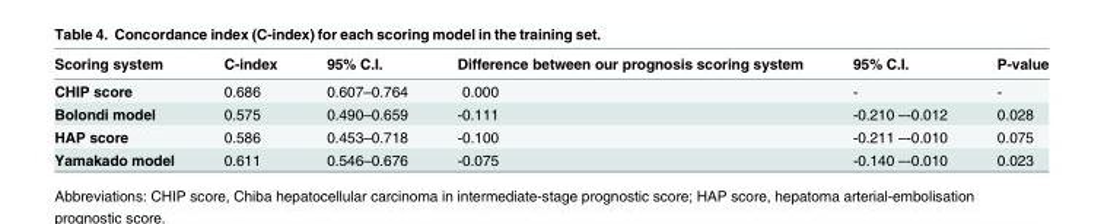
<table><thead><tr><td>Scoring system</td><td>C-index</td><td>95% C.I.</td><td>Difference between our prognosis scoring system</td><td>95% C.I.</td><td>P-value</td></tr></thead><tbody><tr><td>CHIP score</td><td>0.686</td><td>0.607–0.764</td><td>0.000</td><td>-</td><td>-</td></tr><tr><td>Bolondi model</td><td>0.575</td><td>0.490–0.659</td><td>-0.111</td><td>-0.210 –-0.012</td><td>0.028</td></tr><tr><td>HAP score</td><td>0.586</td><td>0.453–0.718</td><td>-0.100</td><td>-0.211 –-0.010</td><td>0.075</td></tr><tr><td>Yamakado model</td><td>0.611</td><td>0.546–0.676</td><td>-0.075</td><td>-0.140 –-0.010</td><td>0.023</td></tr></tbody></table>